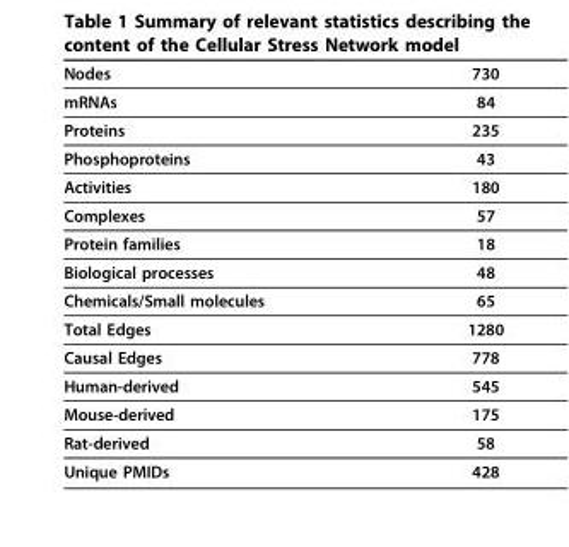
<table><thead><tr><td>Nodes</td><td>730</td></tr></thead><tbody><tr><td>mRNAs</td><td>84</td></tr><tr><td>Proteins</td><td>235</td></tr><tr><td>Phosphoproteins</td><td>43</td></tr><tr><td>Activities</td><td>180</td></tr><tr><td>Complexes</td><td>57</td></tr><tr><td>Protein families</td><td>18</td></tr><tr><td>Biological processes</td><td>48</td></tr><tr><td>Chemicals/Small molecules</td><td>65</td></tr><tr><td>Total Edges</td><td>1280</td></tr><tr><td>Causal Edges</td><td>778</td></tr><tr><td>Human-derived</td><td>545</td></tr><tr><td>Mouse-derived</td><td>175</td></tr><tr><td>Rat-derived</td><td>58</td></tr><tr><td>Unique PMIDs</td><td>428</td></tr></tbody></table>